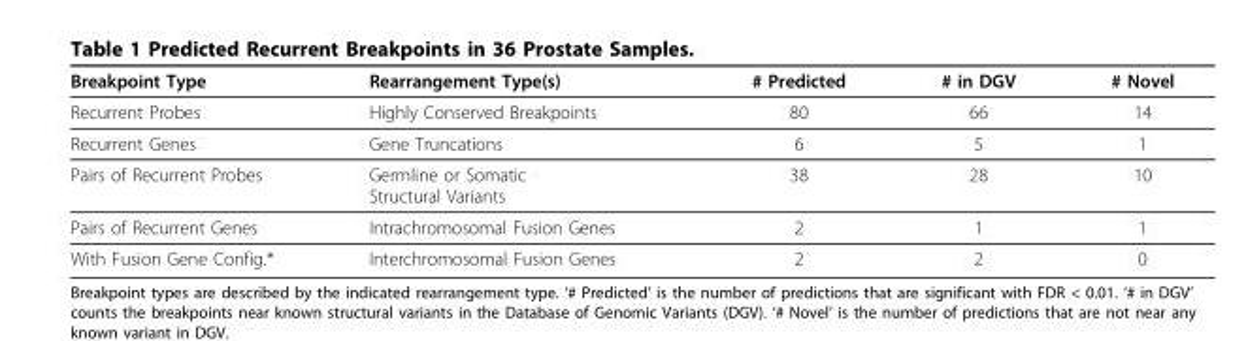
<table><thead><tr><td>Breakpoint Type</td><td>Rearrangement Type(s)</td><td># Predicted</td><td># in DGV</td><td># Novel</td></tr></thead><tbody><tr><td>Recurrent Probes</td><td>Highly Conserved Breakpoints</td><td>80</td><td>66</td><td>14</td></tr><tr><td>Recurrent Genes</td><td>Gene Truncations</td><td>6</td><td>5</td><td>1</td></tr><tr><td>Pairs of Recurrent Probes</td><td>Germline or Somatic Structural Variants</td><td>38</td><td>28</td><td>10</td></tr><tr><td>Pairs of Recurrent Genes</td><td>Intrachromosomal Fusion Genes</td><td>2</td><td>1</td><td>1</td></tr><tr><td>With Fusion Gene Config.*</td><td>Interchromosomal Fusion Genes</td><td>2</td><td>2</td><td>0</td></tr></tbody></table>